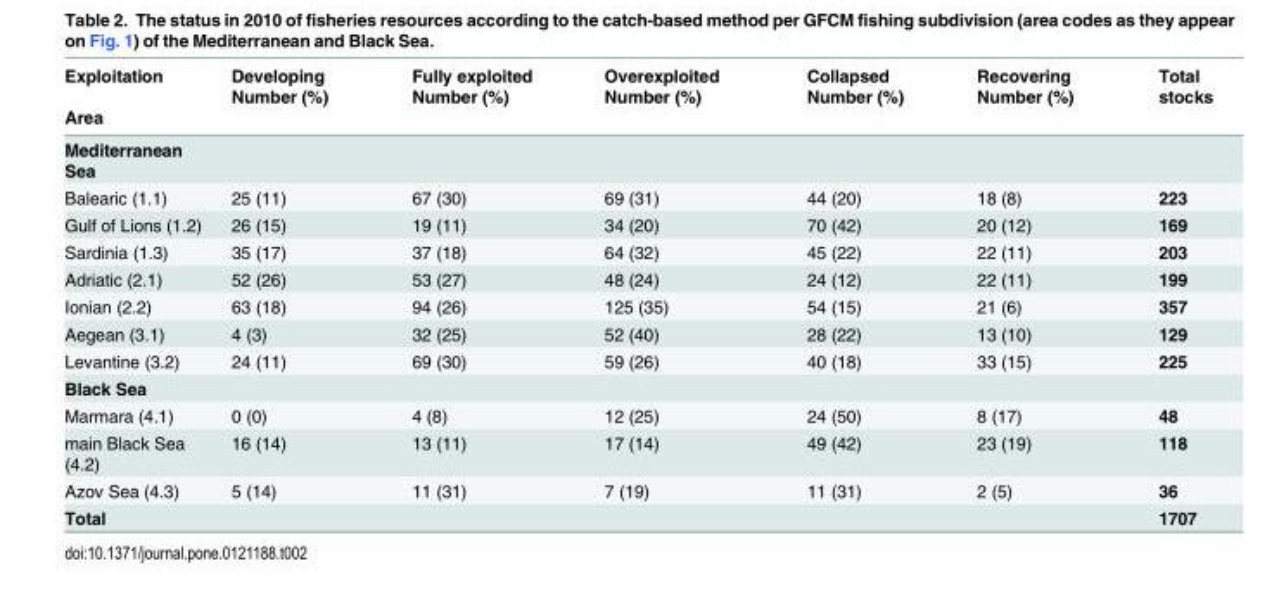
<table><thead><tr><td rowspan="2">Exploitation Area</td><td rowspan="2">Developing Number (%)</td><td rowspan="2">Fully exploited Number (%)</td><td rowspan="2">Overexploited Number (%)</td><td rowspan="2">Collapsed Number (%)</td><td rowspan="2">Recovering Number (%)</td><td rowspan="2">Total stocks</td></tr><tr></tr></thead><tbody><tr><td colspan="7">Mediterranean Sea</td></tr><tr><td>Balearic (1.1)</td><td>25 (11)</td><td>67 (30)</td><td>69 (31)</td><td>44 (20)</td><td>18 (8)</td><td>223</td></tr><tr><td>Gulf of Lions (1.2)</td><td>26 (15)</td><td>19 (11)</td><td>34 (20)</td><td>70 (42)</td><td>20 (12)</td><td>169</td></tr><tr><td>Sardinia (1.3)</td><td>35 (17)</td><td>37 (18)</td><td>64 (32)</td><td>45 (22)</td><td>22 (11)</td><td>203</td></tr><tr><td>Adriatic (2.1)</td><td>52 (26)</td><td>53 (27)</td><td>48 (24)</td><td>24 (12)</td><td>22 (11)</td><td>199</td></tr><tr><td>Ionian (2.2)</td><td>63 (18)</td><td>94 (26)</td><td>125 (35)</td><td>54 (15)</td><td>21 (6)</td><td>357</td></tr><tr><td>Aegean (3.1)</td><td>4 (3)</td><td>32 (25)</td><td>52 (40)</td><td>28 (22)</td><td>13 (10)</td><td>129</td></tr><tr><td>Levantine (3.2)</td><td>24 (11)</td><td>69 (30)</td><td>59 (26)</td><td>40 (18)</td><td>33 (15)</td><td>225</td></tr><tr><td colspan="7">Black Sea</td></tr><tr><td>Marmara (4.1)</td><td>0 (0)</td><td>4 (8)</td><td>12 (25)</td><td>24 (50)</td><td>8 (17)</td><td>48</td></tr><tr><td>main Black Sea (4.2)</td><td>16 (14)</td><td>13 (11)</td><td>17 (14)</td><td>49 (42)</td><td>23 (19)</td><td>118</td></tr><tr><td>Azov Sea (4.3)</td><td>5 (14)</td><td>11 (31)</td><td>7 (19)</td><td>11 (31)</td><td>2 (5)</td><td>36</td></tr><tr><td>Total</td><td></td><td></td><td></td><td></td><td></td><td>1707</td></tr></tbody></table>